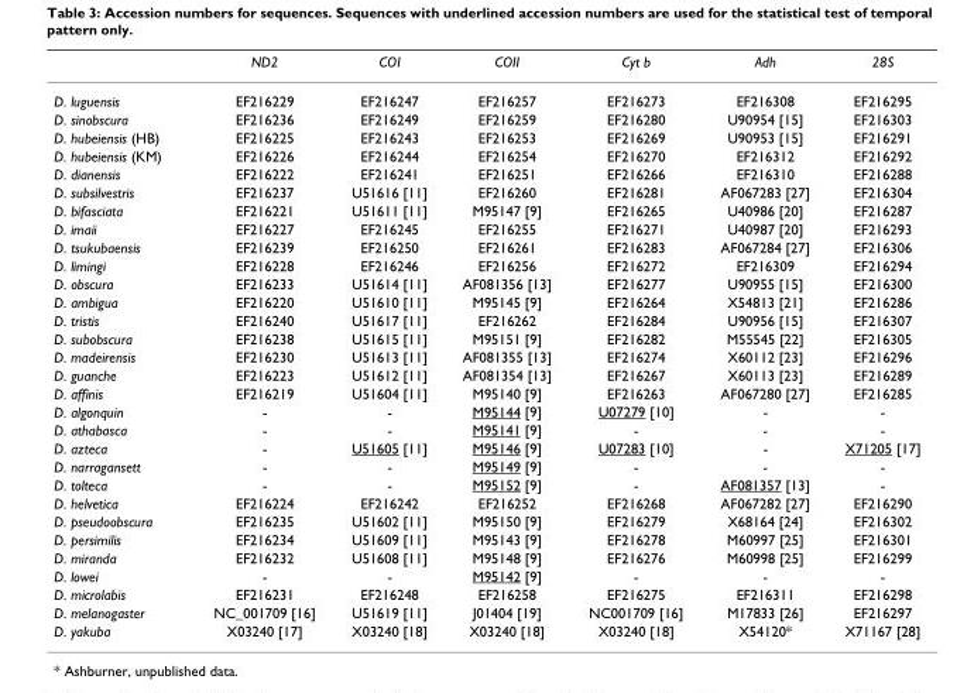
<table><thead><tr><td></td><td>ND2</td><td>COI</td><td>COII</td><td>Cyt b</td><td>Adh</td><td>28S</td></tr></thead><tbody><tr><td>D. luguensis</td><td>EF216229</td><td>EF216247</td><td>EF216257</td><td>EF216273</td><td>EF216308</td><td>EF216295</td></tr><tr><td>D. sinobscura</td><td>EF216236</td><td>EF216249</td><td>EF216259</td><td>EF216280</td><td>U90954 [15]</td><td>EF216303</td></tr><tr><td>D. hubeiensis (HB)</td><td>EF216225</td><td>EF216243</td><td>EF216253</td><td>EF216269</td><td>U90953 [15]</td><td>EF216291</td></tr><tr><td>D. hubeiensis (KM)</td><td>EF216226</td><td>EF216244</td><td>EF216254</td><td>EF216270</td><td>EF216312</td><td>EF216292</td></tr><tr><td>D. dianensis</td><td>EF216222</td><td>EF216241</td><td>EF216251</td><td>EF216266</td><td>EF216310</td><td>EF216288</td></tr><tr><td>D. subsilvestris</td><td>EF216237</td><td>U51616 [11]</td><td>EF216260</td><td>EF216281</td><td>AF067283 [27]</td><td>EF216304</td></tr><tr><td>D. bifasciata</td><td>EF216221</td><td>U51611 [11]</td><td>M95147 [9]</td><td>EF216265</td><td>U40986 [20]</td><td>EF216287</td></tr><tr><td>D. imaii</td><td>EF216227</td><td>EF216245</td><td>EF216255</td><td>EF216271</td><td>U40987 [20]</td><td>EF216293</td></tr><tr><td>D. tsukubaensis</td><td>EF216239</td><td>EF216250</td><td>EF216261</td><td>EF216283</td><td>AF067284 [27]</td><td>EF216306</td></tr><tr><td>D. limingi</td><td>EF216228</td><td>EF216246</td><td>EF216256</td><td>EF216272</td><td>EF216309</td><td>EF216294</td></tr><tr><td>D. obscura</td><td>EF216233</td><td>U51614 [11]</td><td>AF081356 [13]</td><td>EF216277</td><td>U90955 [15]</td><td>EF216300</td></tr><tr><td>D. ambigua</td><td>EF216220</td><td>U51610 [11]</td><td>M95145 [9]</td><td>EF216264</td><td>X54813 [21]</td><td>EF216286</td></tr><tr><td>D. tristis</td><td>EF216240</td><td>U51617 [11]</td><td>EF216262</td><td>EF216284</td><td>U90956 [15]</td><td>EF216307</td></tr><tr><td>D. subobscura</td><td>EF216238</td><td>U51615 [11]</td><td>M95151 [9]</td><td>EF216282</td><td>M55545 [22]</td><td>EF216305</td></tr><tr><td>D. madeirensis</td><td>EF216230</td><td>U51613 [11]</td><td>AF081355 [13]</td><td>EF216274</td><td>X60112 [23]</td><td>EF216296</td></tr><tr><td>D. guanche</td><td>EF216223</td><td>U51612 [11]</td><td>AF081354 [13]</td><td>EF216267</td><td>X60113 [23]</td><td>EF216289</td></tr><tr><td>D. affinis</td><td>EF216219</td><td>U51604 [11]</td><td>M95140 [9]</td><td>EF216263</td><td>AF067280 [27]</td><td>EF216285</td></tr><tr><td>D. algonquin</td><td>-</td><td>-</td><td>M95144 [9]</td><td>U07279 [10]</td><td>-</td><td>-</td></tr><tr><td>D. athabasca</td><td>-</td><td>-</td><td>M95141 [9]</td><td>-</td><td>-</td><td>-</td></tr><tr><td>D. azteca</td><td>-</td><td>U51605 [11]</td><td>M95146 [9]</td><td>U07283 [10]</td><td>-</td><td>X71205 [17]</td></tr><tr><td>D. narragansett</td><td>-</td><td>-</td><td>M95149 [9]</td><td>-</td><td>-</td><td>-</td></tr><tr><td>D. tolteca</td><td>-</td><td>-</td><td>M95152 [9]</td><td>-</td><td>AF081357 [13]</td><td>-</td></tr><tr><td>D. helvetica</td><td>EF216224</td><td>EF216242</td><td>EF216252</td><td>EF216268</td><td>AF067282 [27]</td><td>EF216290</td></tr><tr><td>D. pseudoobscura</td><td>EF216235</td><td>U51602 [11]</td><td>M95150 [9]</td><td>EF216279</td><td>X68164 [24]</td><td>EF216302</td></tr><tr><td>D. persimilis</td><td>EF216234</td><td>U51609 [11]</td><td>M95143 [9]</td><td>EF216278</td><td>M60997 [25]</td><td>EF216301</td></tr><tr><td>D. miranda</td><td>EF216232</td><td>U51608 [11]</td><td>M95148 [9]</td><td>EF216276</td><td>M60998 [25]</td><td>EF216299</td></tr><tr><td>D. lowei</td><td>-</td><td>-</td><td>M95142 [9]</td><td>-</td><td>-</td><td>-</td></tr><tr><td>D. microlabis</td><td>EF216231</td><td>EF216248</td><td>EF216258</td><td>EF216275</td><td>EF216311</td><td>EF216298</td></tr><tr><td>D. melanogaster</td><td>NC_001709 [16]</td><td>U51619 [11]</td><td>J01404 [19]</td><td>NC001709 [16]</td><td>M17833 [26]</td><td>EF216297</td></tr><tr><td>D. yakuba</td><td>X03240 [17]</td><td>X03240 [18]</td><td>X03240 [18]</td><td>X03240 [18]</td><td>X54120*</td><td>X71167 [28]</td></tr></tbody></table>